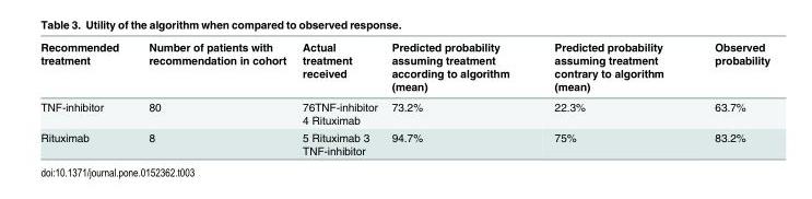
<table><thead><tr><td>Recommended treatment</td><td>Number of patients with recommendation in cohort</td><td>Actual treatment received</td><td>Predicted probability assuming treatment according to algorithm (mean)</td><td>Predicted probability assuming treatment contrary to algorithm (mean)</td><td>Observed probability</td></tr></thead><tbody><tr><td>TNF-inhibitor</td><td>80</td><td>76TNF-inhibitor 4 Rituximab</td><td>73.2%</td><td>22.3%</td><td>63.7%</td></tr><tr><td>Rituximab</td><td>8</td><td>5 Rituximab 3 TNF-inhibitor</td><td>94.7%</td><td>75%</td><td>83.2%</td></tr></tbody></table>